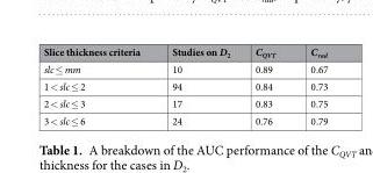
<table><thead><tr><td>Slice thickness criteria</td><td>Studies on D<sub>2</sub></td><td>C<sub>QVT</sub></td><td>C<sub>rad</sub></td></tr></thead><tbody><tr><td>slc ≤ mm</td><td>10</td><td>0.89</td><td>0.67</td></tr><tr><td>1 &lt; slc ≤ 2</td><td>94</td><td>0.84</td><td>0.73</td></tr><tr><td>2 &lt; slc ≤ 3</td><td>17</td><td>0.83</td><td>0.75</td></tr><tr><td>3 &lt; slc ≤ 6</td><td>24</td><td>0.76</td><td>0.79</td></tr></tbody></table>